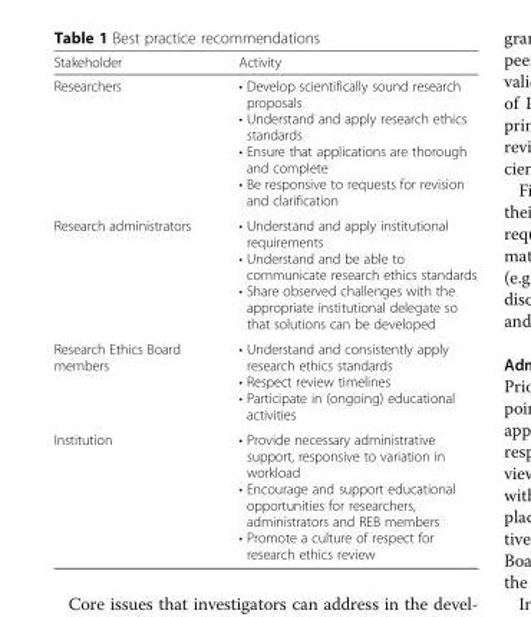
<table><thead><tr><td>Stakeholder</td><td>Activity</td></tr></thead><tbody><tr><td>Researchers</td><td>• Develop scientifically sound research proposals • Understand and apply research ethics standards • Ensure that applications are thorough and complete • Be responsive to requests for revision and clarification</td></tr><tr><td>Research administrators</td><td>• Understand and apply institutional requirements • Understand and be able to communicate research ethics standards • Share observed challenges with the appropriate institutional delegate so that solutions can be developed</td></tr><tr><td>Research Ethics Board members</td><td>• Understand and consistently apply research ethics standards • Respect review timelines • Participate in (ongoing) educational activities</td></tr><tr><td>Institution</td><td>• Provide necessary administrative support, responsive to variation in workload • Encourage and support educational opportunities for researchers, administrators and REB members • Promote a culture of respect for research ethics review</td></tr></tbody></table>